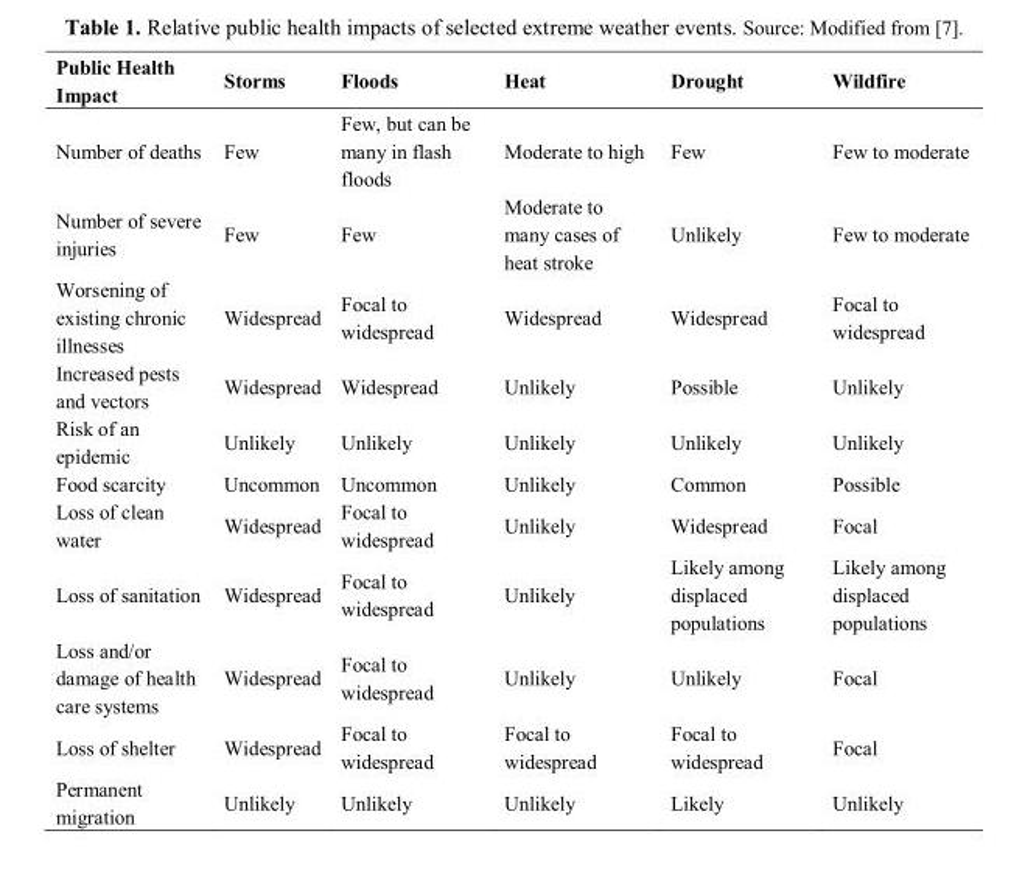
<table><thead><tr><td>Public Health Impact</td><td>Storms</td><td>Floods</td><td>Heat</td><td>Drought</td><td>Wildfire</td></tr></thead><tbody><tr><td>Number of deaths</td><td>Few</td><td>Few, but can be many in flash floods</td><td>Moderate to high</td><td>Few</td><td>Few to moderate</td></tr><tr><td>Number of severe injuries</td><td>Few</td><td>Few</td><td>Moderate to many cases of heat stroke</td><td>Unlikely</td><td>Few to moderate</td></tr><tr><td>Worsening of existing chronic illnesses</td><td>Widespread</td><td>Focal to widespread</td><td>Widespread</td><td>Widespread</td><td>Focal to widespread</td></tr><tr><td>Increased pests and vectors</td><td>Widespread</td><td>Widespread</td><td>Unlikely</td><td>Possible</td><td>Unlikely</td></tr><tr><td>Risk of an epidemic</td><td>Unlikely</td><td>Unlikely</td><td>Unlikely</td><td>Unlikely</td><td>Unlikely</td></tr><tr><td>Food scarcity</td><td>Uncommon</td><td>Uncommon</td><td>Unlikely</td><td>Common</td><td>Possible</td></tr><tr><td>Loss of clean water</td><td>Widespread</td><td>Focal to widespread</td><td>Unlikely</td><td>Widespread</td><td>Focal</td></tr><tr><td>Loss of sanitation</td><td>Widespread</td><td>Focal to widespread</td><td>Unlikely</td><td>Likely among displaced populations</td><td>Likely among displaced populations</td></tr><tr><td>Loss and/or damage of health care systems</td><td>Widespread</td><td>Focal to widespread</td><td>Unlikely</td><td>Unlikely</td><td>Focal</td></tr><tr><td>Loss of shelter</td><td>Widespread</td><td>Focal to widespread</td><td>Focal to widespread</td><td>Focal to widespread</td><td>Focal</td></tr><tr><td>Permanent migration</td><td>Unlikely</td><td>Unlikely</td><td>Unlikely</td><td>Likely</td><td>Unlikely</td></tr></tbody></table>